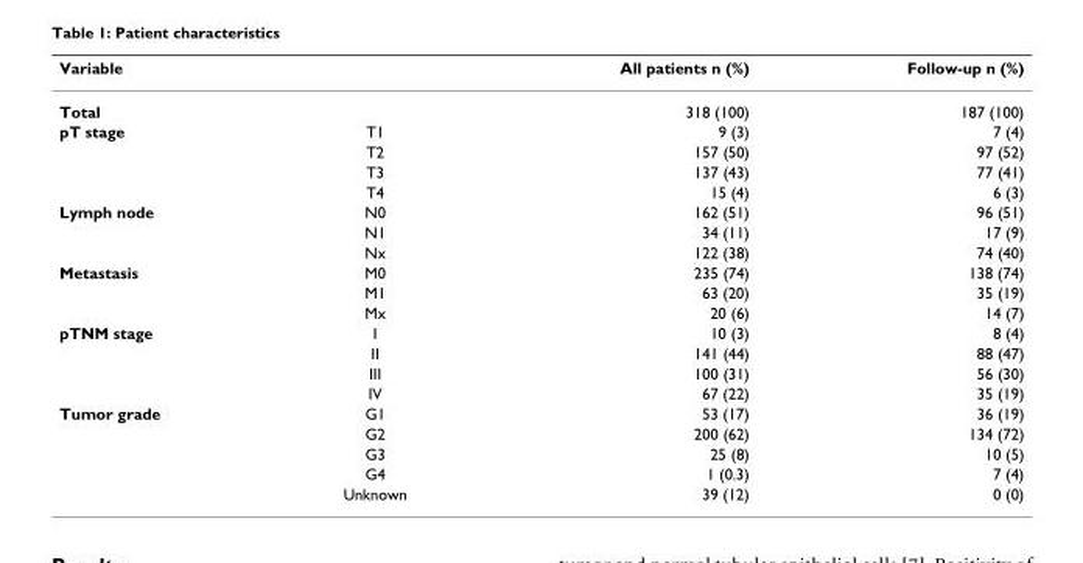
<table><thead><tr><td>Variable</td><td></td><td>All patients n (%)</td><td>Follow-up n (%)</td></tr></thead><tbody><tr><td>Total</td><td></td><td>318 (100)</td><td>187 (100)</td></tr><tr><td rowspan="4">pT stage</td><td>T1</td><td>9 (3)</td><td>7 (4)</td></tr><tr><td>T2</td><td>157 (50)</td><td>97 (52)</td></tr><tr><td>T3</td><td>137 (43)</td><td>77 (41)</td></tr><tr><td>T4</td><td>15 (4)</td><td>6 (3)</td></tr><tr><td rowspan="3">Lymph node</td><td>N0</td><td>162 (51)</td><td>96 (51)</td></tr><tr><td>N1</td><td>34 (11)</td><td>17 (9)</td></tr><tr><td>Nx</td><td>122 (38)</td><td>74 (40)</td></tr><tr><td rowspan="3">Metastasis</td><td>M0</td><td>235 (74)</td><td>138 (74)</td></tr><tr><td>M1</td><td>63 (20)</td><td>35 (19)</td></tr><tr><td>Mx</td><td>20 (6)</td><td>14 (7)</td></tr><tr><td rowspan="4">pTNM stage</td><td>I</td><td>10 (3)</td><td>8 (4)</td></tr><tr><td>II</td><td>141 (44)</td><td>88 (47)</td></tr><tr><td>III</td><td>100 (31)</td><td>56 (30)</td></tr><tr><td>IV</td><td>67 (22)</td><td>35 (19)</td></tr><tr><td rowspan="5">Tumor grade</td><td>G1</td><td>53 (17)</td><td>36 (19)</td></tr><tr><td>G2</td><td>200 (62)</td><td>134 (72)</td></tr><tr><td>G3</td><td>25 (8)</td><td>10 (5)</td></tr><tr><td>G4</td><td>1 (0.3)</td><td>7 (4)</td></tr><tr><td>Unknown</td><td>39 (12)</td><td>0 (0)</td></tr></tbody></table>